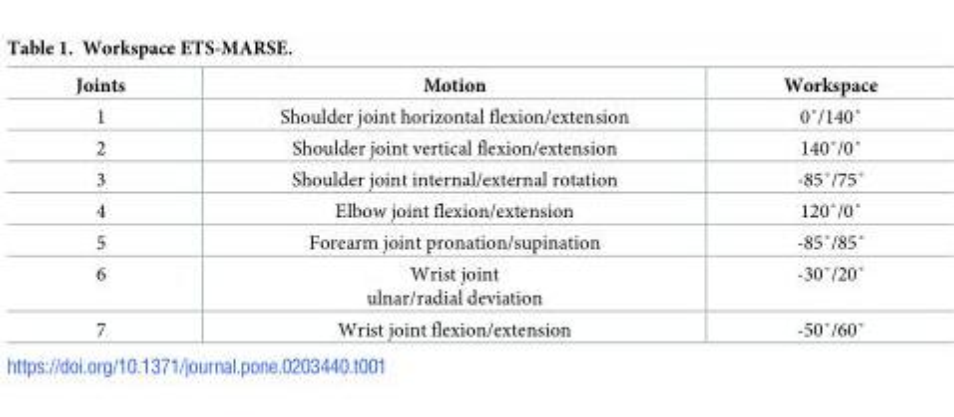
<table><thead><tr><td>Joints</td><td>Motion</td><td>Workspace</td></tr></thead><tbody><tr><td>1</td><td>Shoulder joint horizontal flexion/extension</td><td>0˚/140˚</td></tr><tr><td>2</td><td>Shoulder joint vertical flexion/extension</td><td>140˚/0˚</td></tr><tr><td>3</td><td>Shoulder joint internal/external rotation</td><td>-85˚/75˚</td></tr><tr><td>4</td><td>Elbow joint flexion/extension</td><td>120˚/0˚</td></tr><tr><td>5</td><td>Forearm joint pronation/supination</td><td>-85˚/85˚</td></tr><tr><td>6</td><td>Wrist joint ulnar/radial deviation</td><td>-30˚/20˚</td></tr><tr><td>7</td><td>Wrist joint flexion/extension</td><td>-50˚/60˚</td></tr></tbody></table>